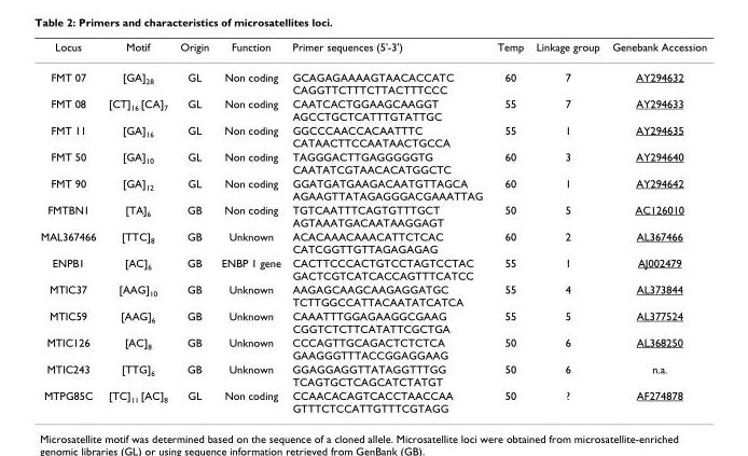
<table><thead><tr><td>Locus</td><td>Motif</td><td>Origin</td><td>Function</td><td>Primer sequences (5&#x27;-3&#x27;)</td><td>Temp</td><td>Linkage group</td><td>Genebank Accession</td></tr></thead><tbody><tr><td>FMT 07</td><td>[GA]28</td><td>GL</td><td>Non coding</td><td>GCAGAGAAAAGTAACACCATC CAGGTTCTTTCTTACTTTCCC</td><td>60</td><td>7</td><td>AY294632</td></tr><tr><td>FMT 08</td><td>[CT]16 [CA]7</td><td>GL</td><td>Non coding</td><td>CAATCACTGGAAGCAAGGT AGCCTGCTCATTTGTATTGC</td><td>55</td><td>7</td><td>AY294633</td></tr><tr><td>FMT 11</td><td>[GA]16</td><td>GL</td><td>Non coding</td><td>GGCCCAACCACAATTTC CATAACTTCCAATAACTGCCA</td><td>55</td><td>1</td><td>AY294635</td></tr><tr><td>FMT 50</td><td>[GA]10</td><td>GL</td><td>Non coding</td><td>TAGGGACTTGAGGGGGTG CAATATCGTAACACATGGCTC</td><td>60</td><td>3</td><td>AY294640</td></tr><tr><td>FMT 90</td><td>[GA]12</td><td>GL</td><td>Non coding</td><td>GGATGATGAAGACAATGTTAGCA AGAAGTTATAGAGGGACGAAATTAG</td><td>60</td><td>1</td><td>AY294642</td></tr><tr><td>FMTBN1</td><td>[TA]6</td><td>GB</td><td>Non coding</td><td>TGTCAATTTCAGTGTTTGCT AGTAAATGACAATAAGGAGT</td><td>50</td><td>5</td><td>AC126010</td></tr><tr><td>MAL367466</td><td>[TTC]8</td><td>GB</td><td>Unknown</td><td>ACACAAACAAACATTCTCAC CATCGGTTGTTAGAGAGAG</td><td>60</td><td>2</td><td>AL367466</td></tr><tr><td>ENPB1</td><td>[AC]6</td><td>GB</td><td>ENBP 1 gene</td><td>CACTTCCCACTGTCCTAGTCCTAC GACTCGTCATCACCAGTTTCATCC</td><td>55</td><td>1</td><td>AJ002479</td></tr><tr><td>MTIC37</td><td>[AAG]10</td><td>GB</td><td>Unknown</td><td>AAGAGCAAGCAAGAGGATGC TCTTGGCCATTACAATATCATCA</td><td>55</td><td>4</td><td>AL373844</td></tr><tr><td>MTIC59</td><td>[AAG]6</td><td>GB</td><td>Unknown</td><td>CAAATTTGGAGAAGGCGAAG CGGTCTCTTCATATTCGCTGA</td><td>55</td><td>5</td><td>AL377524</td></tr><tr><td>MTIC126</td><td>[AC]8</td><td>GB</td><td>Unknown</td><td>CCCAGTTGCAGACTCTCTCA GAAGGGTTTACCGGAGGAAG</td><td>50</td><td>6</td><td>AL368250</td></tr><tr><td>MTIC243</td><td>[TTG]6</td><td>GB</td><td>Unknown</td><td>GGAGGAGGTTATAGGTTTGG TCAGTGCTCAGCATCTATGT</td><td>50</td><td>6</td><td>n.a.</td></tr><tr><td>MTPG85C</td><td>[TC]11 [AC]8</td><td>GL</td><td>Non coding</td><td>CCAACACAGTCACCTAACCAA GTTTCTCCATTGTTTCGTAGG</td><td>50</td><td>?</td><td>AF274878</td></tr></tbody></table>